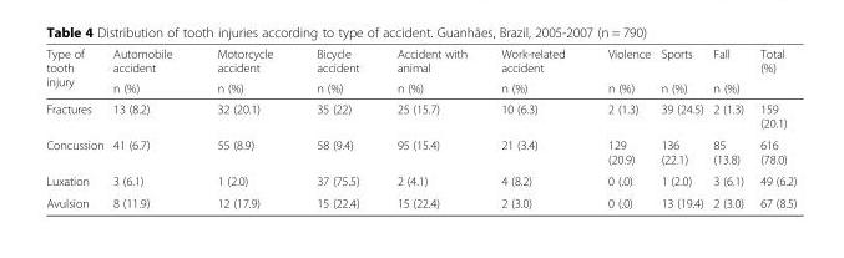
<table><thead><tr><td rowspan="2">Type of tooth injury</td><td rowspan="2">Automobile accident n (%)</td><td rowspan="2">Motorcycle accident n (%)</td><td rowspan="2">Bicycle accident n (%)</td><td rowspan="2">Accident with animal n (%)</td><td rowspan="2">Work-related accident n (%)</td><td rowspan="2">Violence n (%)</td><td rowspan="2">Sports n (%)</td><td rowspan="2">Fall n (%)</td><td rowspan="2">Total (%)</td></tr><tr></tr></thead><tbody><tr><td>Fractures</td><td>13 (8.2)</td><td>32 (20.1)</td><td>35 (22)</td><td>25 (15.7)</td><td>10 (6.3)</td><td>2 (1.3)</td><td>39 (24.5)</td><td>2 (1.3)</td><td>159 (20.1)</td></tr><tr><td>Concussion</td><td>41 (6.7)</td><td>55 (8.9)</td><td>58 (9.4)</td><td>95 (15.4)</td><td>21 (3.4)</td><td>129 (20.9)</td><td>136 (22.1)</td><td>85 (13.8)</td><td>616 (78.0)</td></tr><tr><td>Luxation</td><td>3 (6.1)</td><td>1 (2.0)</td><td>37 (75.5)</td><td>2 (4.1)</td><td>4 (8.2)</td><td>0 (.0)</td><td>1 (2.0)</td><td>3 (6.1)</td><td>49 (6.2)</td></tr><tr><td>Avulsion</td><td>8 (11.9)</td><td>12 (17.9)</td><td>15 (22.4)</td><td>15 (22.4)</td><td>2 (3.0)</td><td>0 (.0)</td><td>13 (19.4)</td><td>2 (3.0)</td><td>67 (8.5)</td></tr></tbody></table>